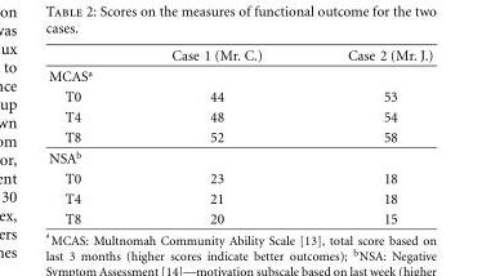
<table><thead><tr><td></td><td>Case 1 (Mr. C.)</td><td>Case 2 (Mr. J.)</td></tr></thead><tbody><tr><td colspan="3">MCAS<sup>a</sup></td></tr><tr><td>T0</td><td>44</td><td>53</td></tr><tr><td>T4</td><td>48</td><td>54</td></tr><tr><td>T8</td><td>52</td><td>58</td></tr><tr><td colspan="3">NSA<sup>b</sup></td></tr><tr><td>T0</td><td>23</td><td>18</td></tr><tr><td>T4</td><td>21</td><td>18</td></tr><tr><td>T8</td><td>20</td><td>15</td></tr></tbody></table>